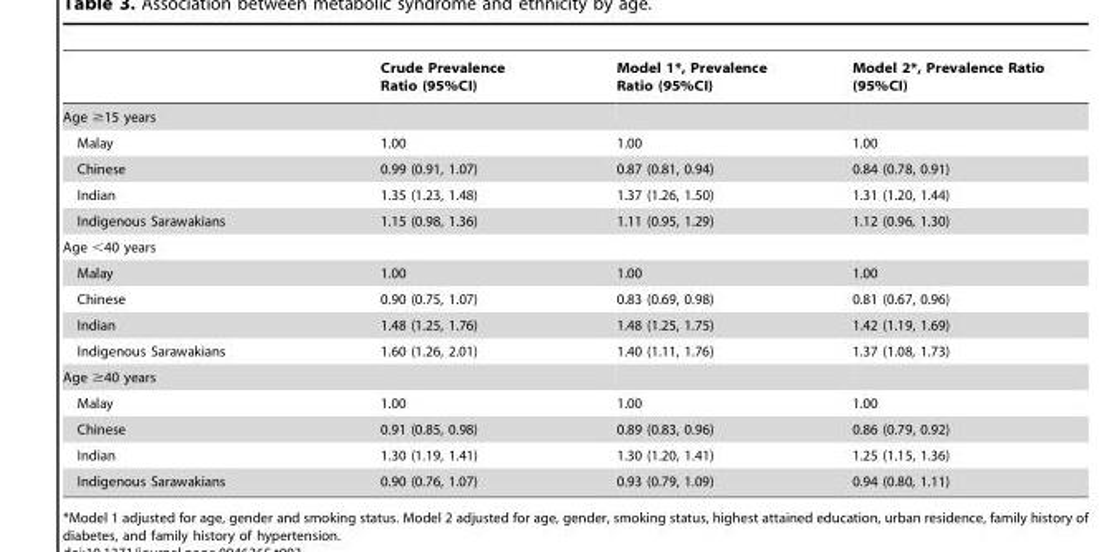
<table><thead><tr><td></td><td>Crude Prevalence Ratio (95%CI)</td><td>Model 1*, Prevalence Ratio (95%CI)</td><td>Model 2*, Prevalence Ratio (95%CI)</td></tr></thead><tbody><tr><td colspan="4">Age ≥15 years</td></tr><tr><td>Malay</td><td>1.00</td><td>1.00</td><td>1.00</td></tr><tr><td>Chinese</td><td>0.99 (0.91, 1.07)</td><td>0.87 (0.81, 0.94)</td><td>0.84 (0.78, 0.91)</td></tr><tr><td>Indian</td><td>1.35 (1.23, 1.48)</td><td>1.37 (1.26, 1.50)</td><td>1.31 (1.20, 1.44)</td></tr><tr><td>Indigenous Sarawakians</td><td>1.15 (0.98, 1.36)</td><td>1.11 (0.95, 1.29)</td><td>1.12 (0.96, 1.30)</td></tr><tr><td colspan="4">Age &lt;40 years</td></tr><tr><td>Malay</td><td>1.00</td><td>1.00</td><td>1.00</td></tr><tr><td>Chinese</td><td>0.90 (0.75, 1.07)</td><td>0.83 (0.69, 0.98)</td><td>0.81 (0.67, 0.96)</td></tr><tr><td>Indian</td><td>1.48 (1.25, 1.76)</td><td>1.48 (1.25, 1.75)</td><td>1.42 (1.19, 1.69)</td></tr><tr><td>Indigenous Sarawakians</td><td>1.60 (1.26, 2.01)</td><td>1.40 (1.11, 1.76)</td><td>1.37 (1.08, 1.73)</td></tr><tr><td colspan="4">Age ≥40 years</td></tr><tr><td>Malay</td><td>1.00</td><td>1.00</td><td>1.00</td></tr><tr><td>Chinese</td><td>0.91 (0.85, 0.98)</td><td>0.89 (0.83, 0.96)</td><td>0.86 (0.79, 0.92)</td></tr><tr><td>Indian</td><td>1.30 (1.19, 1.41)</td><td>1.30 (1.20, 1.41)</td><td>1.25 (1.15, 1.36)</td></tr><tr><td>Indigenous Sarawakians</td><td>0.90 (0.76, 1.07)</td><td>0.93 (0.79, 1.09)</td><td>0.94 (0.80, 1.11)</td></tr></tbody></table>